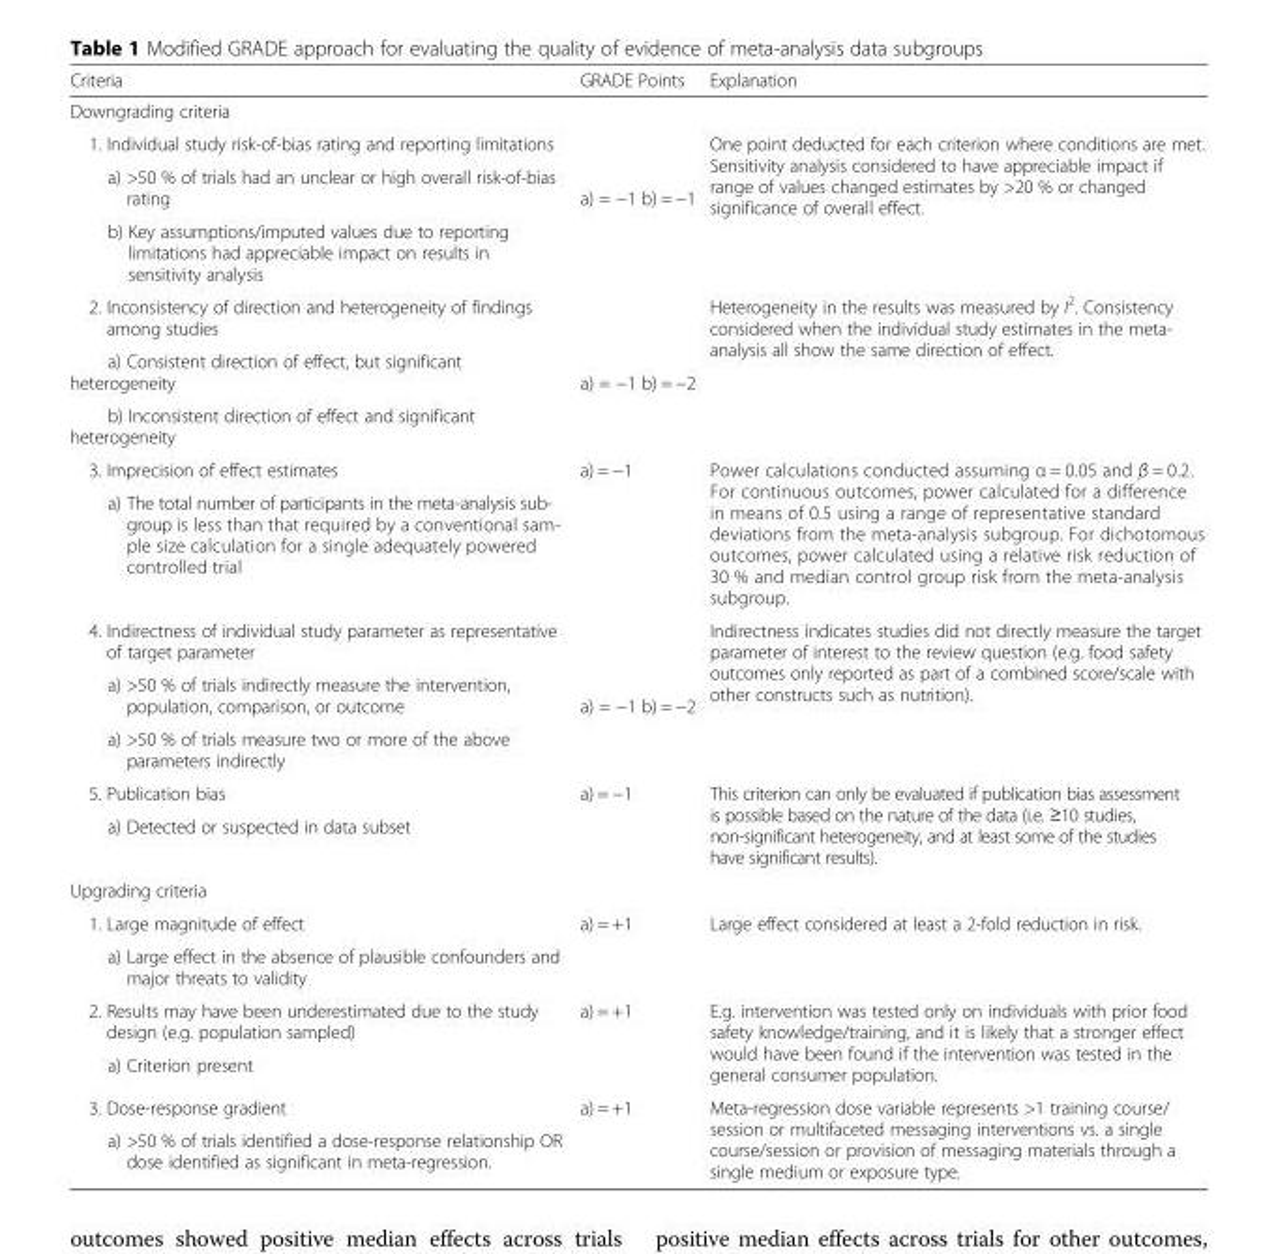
<table><thead><tr><td>Criteria</td><td>GRADE Points</td><td>Explanation</td></tr></thead><tbody><tr><td colspan="3">Downgrading criteria</td></tr><tr><td colspan="2">1. Individual study risk-of-bias rating and reporting limitations</td><td rowspan="3">One point deducted for each criterion where conditions are met. Sensitivity analysis considered to have appreciable impact if range of values changed estimates by &gt;20 % or changed significance of overall effect.</td></tr><tr><td>a) &gt;50 % of trials had an unclear or high overall risk-of-bias rating</td><td rowspan="2">a) = −1 b) = −1</td></tr><tr><td>b) Key assumptions/imputed values due to reporting limitations had appreciable impact on results in sensitivity analysis</td></tr><tr><td colspan="2">2. Inconsistency of direction and heterogeneity of findings among studies</td><td rowspan="3">Heterogeneity in the results was measured by I<sup>2</sup>. Consistency considered when the individual study estimates in the meta- analysis all show the same direction of effect.</td></tr><tr><td>a) Consistent direction of effect, but significant heterogeneity</td><td rowspan="2">a) = −1 b) = −2</td></tr><tr><td>b) Inconsistent direction of effect and significant heterogeneity</td></tr><tr><td>3. Imprecision of effect estimates</td><td rowspan="2">a) = −1</td><td rowspan="2">Power calculations conducted assuming α = 0.05 and β = 0.2. For continuous outcomes, power calculated for a difference in means of 0.5 using a range of representative standard deviations from the meta-analysis subgroup. For dichotomous outcomes, power calculated using a relative risk reduction of 30 % and median control group risk from the meta-analysis subgroup.</td></tr><tr><td>a) The total number of participants in the meta-analysis sub- group is less than that required by a conventional sam- ple size calculation for a single adequately powered controlled trial</td></tr><tr><td colspan="2">4. Indirectness of individual study parameter as representative of target parameter</td><td rowspan="3">Indirectness indicates studies did not directly measure the target parameter of interest to the review question (e.g. food safety outcomes only reported as part of a combined score/scale with other constructs such as nutrition).</td></tr><tr><td>a) &gt;50 % of trials indirectly measure the intervention, population, comparison, or outcome</td><td rowspan="2">a) = −1 b) = −2</td></tr><tr><td>a) &gt;50 % of trials measure two or more of the above parameters indirectly</td></tr><tr><td>5. Publication bias</td><td rowspan="2">a) = −1</td><td rowspan="2">This criterion can only be evaluated if publication bias assessment is possible based on the nature of the data (i.e. ≥10 studies, non-significant heterogeneity, and at least some of the studies have significant results).</td></tr><tr><td>a) Detected or suspected in data subset</td></tr><tr><td colspan="3">Upgrading criteria</td></tr><tr><td>1. Large magnitude of effect</td><td rowspan="2">a) = +1</td><td rowspan="2">Large effect considered at least a 2-fold reduction in risk.</td></tr><tr><td>a) Large effect in the absence of plausible confounders and major threats to validity</td></tr><tr><td>2. Results may have been underestimated due to the study design (e.g. population sampled)</td><td rowspan="2">a) = +1</td><td rowspan="2">E.g. intervention was tested only on individuals with prior food safety knowledge/training, and it is likely that a stronger effect would have been found if the intervention was tested in the general consumer population.</td></tr><tr><td>a) Criterion present</td></tr><tr><td>3. Dose-response gradient</td><td rowspan="2">a) = +1</td><td rowspan="2">Meta-regression dose variable represents &gt;1 training course/ session or multifaceted messaging interventions vs. a single course/session or provision of messaging materials through a single medium or exposure type.</td></tr><tr><td>a) &gt;50 % of trials identified a dose-response relationship OR dose identified as significant in meta-regression.</td></tr></tbody></table>